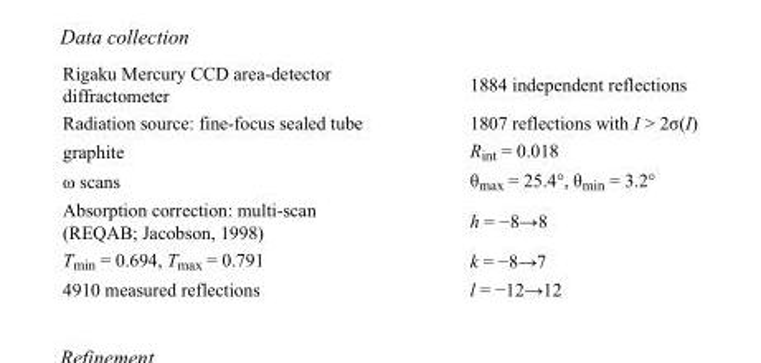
<table><tbody><tr><td>Rigaku Mercury CCD area-detector diffractometer</td><td>1884 independent reflections</td></tr><tr><td>Radiation source: fine-focus sealed tube</td><td>1807 reflections with I &gt; 2σ(I)</td></tr><tr><td>graphite</td><td>R<sub>int</sub> = 0.018</td></tr><tr><td>ω scans</td><td>θ<sub>max</sub> = 25.4°, θ<sub>min</sub> = 3.2°</td></tr><tr><td>Absorption correction: multi-scan (REQAB; Jacobson, 1998)</td><td>h = −8→8</td></tr><tr><td>T<sub>min</sub> = 0.694, T<sub>max</sub> = 0.791</td><td>k = −8→7</td></tr><tr><td>4910 measured reflections</td><td>l = −12→12</td></tr></tbody></table>